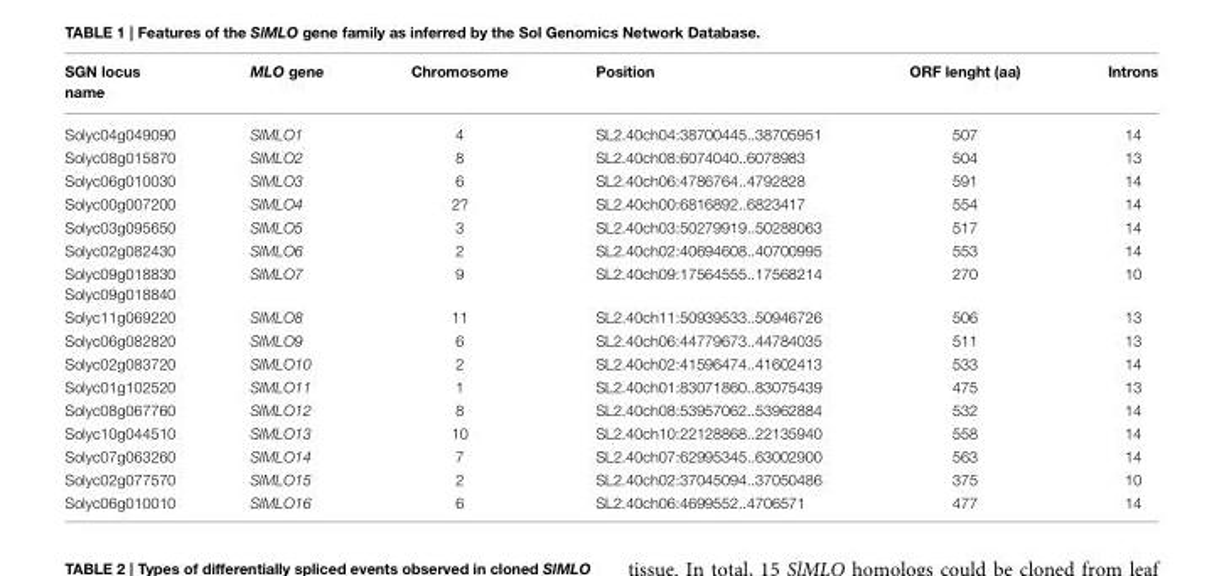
<table><thead><tr><td>SGN locus name</td><td>MLO gene</td><td>Chromosome</td><td>Position</td><td>ORF lenght (aa)</td><td>Introns</td></tr></thead><tbody><tr><td>Solyc04g049090</td><td>SlMLO1</td><td>4</td><td>SL2.40ch04:38700445..38705951</td><td>507</td><td>14</td></tr><tr><td>Solyc08g015870</td><td>SlMLO2</td><td>8</td><td>SL2.40ch08:6074040..6078983</td><td>504</td><td>13</td></tr><tr><td>Solyc06g010030</td><td>SlMLO3</td><td>6</td><td>SL2.40ch06:4786764..4792828</td><td>591</td><td>14</td></tr><tr><td>Solyc00g007200</td><td>SlMLO4</td><td>2?</td><td>SL2.40ch00:6816892..6823417</td><td>554</td><td>14</td></tr><tr><td>Solyc03g095650</td><td>SlMLO5</td><td>3</td><td>SL2.40ch03:50279919..50288063</td><td>517</td><td>14</td></tr><tr><td>Solyc02g082430</td><td>SlMLO6</td><td>2</td><td>SL2.40ch02:40694608..40700995</td><td>553</td><td>14</td></tr><tr><td>Solyc09g018830 Solyc09g018840</td><td>SlMLO7</td><td>9</td><td>SL2.40ch09:17564555..17568214</td><td>270</td><td>10</td></tr><tr><td>Solyc11g069220</td><td>SlMLO8</td><td>11</td><td>SL2.40ch11:50939533..50946726</td><td>506</td><td>13</td></tr><tr><td>Solyc06g082820</td><td>SlMLO9</td><td>6</td><td>SL2.40ch06:44779673..44784035</td><td>511</td><td>13</td></tr><tr><td>Solyc02g083720</td><td>SlMLO10</td><td>2</td><td>SL2.40ch02:41596474..41602413</td><td>533</td><td>14</td></tr><tr><td>Solyc01g102520</td><td>SlMLO11</td><td>1</td><td>SL2.40ch01:83071860..83075439</td><td>475</td><td>13</td></tr><tr><td>Solyc08g067760</td><td>SlMLO12</td><td>8</td><td>SL2.40ch08:53957062..53962884</td><td>532</td><td>14</td></tr><tr><td>Solyc10g044510</td><td>SlMLO13</td><td>10</td><td>SL2.40ch10:22128868..22135940</td><td>558</td><td>14</td></tr><tr><td>Solyc07g063260</td><td>SlMLO14</td><td>7</td><td>SL2.40ch07:62995345..63002900</td><td>563</td><td>14</td></tr><tr><td>Solyc02g077570</td><td>SlMLO15</td><td>2</td><td>SL2.40ch02:37045094..37050486</td><td>375</td><td>10</td></tr><tr><td>Solyc06g010010</td><td>SlMLO16</td><td>6</td><td>SL2.40ch06:4699552..4706571</td><td>477</td><td>14</td></tr></tbody></table>